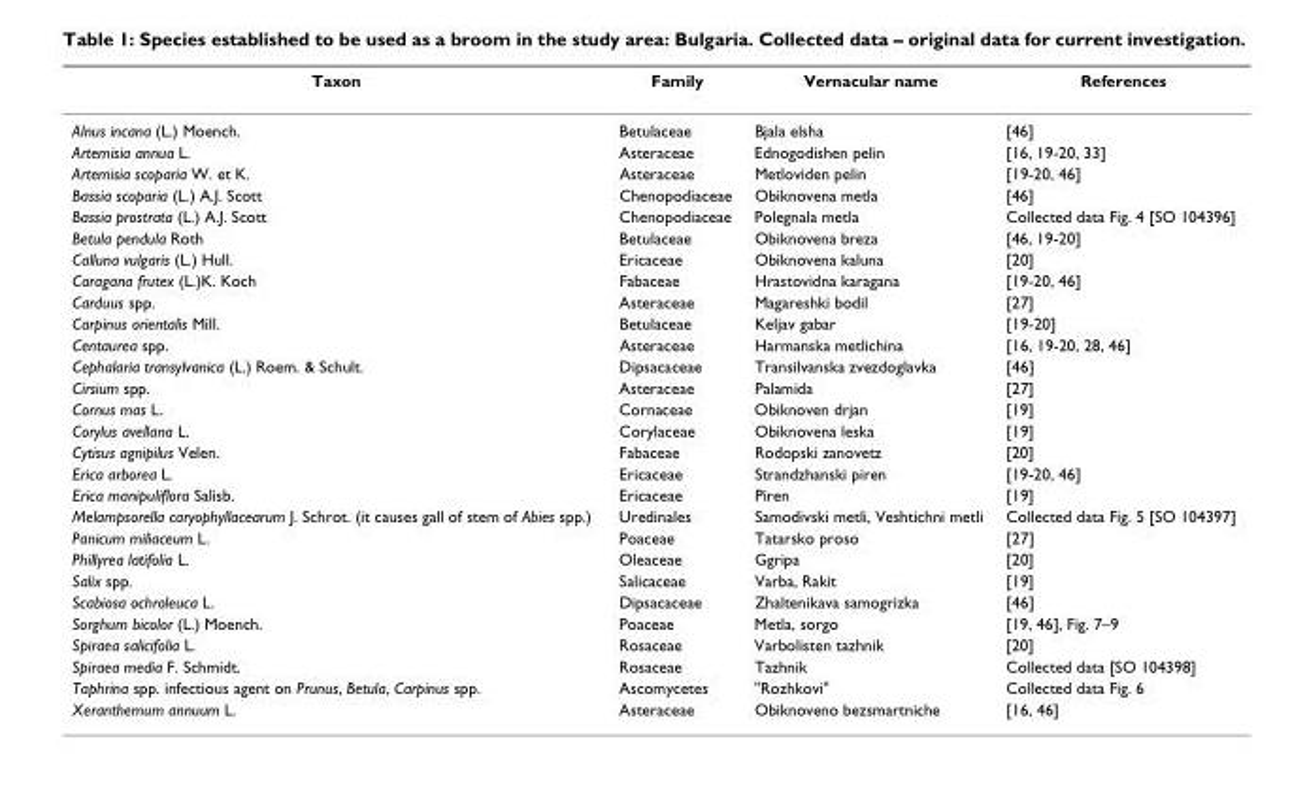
<table><thead><tr><td>Taxon</td><td>Family</td><td>Vernacular name</td><td>References</td></tr></thead><tbody><tr><td>Alnus incana (L.) Moench.</td><td>Betulaceae</td><td>Bjala elsha</td><td>[46]</td></tr><tr><td>Artemisia annua L.</td><td>Asteraceae</td><td>Ednogodishen pelin</td><td>[16, 19-20, 33]</td></tr><tr><td>Artemisia scoparia W. et K.</td><td>Asteraceae</td><td>Metloviden pelin</td><td>[19-20, 46]</td></tr><tr><td>Bassia scoparia (L.) A.J. Scott</td><td>Chenopodiaceae</td><td>Obiknovena metla</td><td>[46]</td></tr><tr><td>Bassia prostrata (L.) A.J. Scott</td><td>Chenopodiaceae</td><td>Polegnala metla</td><td>Collected data Fig. 4 [SO 104396]</td></tr><tr><td>Betula pendula Roth</td><td>Betulaceae</td><td>Obiknovena breza</td><td>[46, 19-20]</td></tr><tr><td>Calluna vulgaris (L.) Hull.</td><td>Ericaceae</td><td>Obiknovena kaluna</td><td>[20]</td></tr><tr><td>Caragana frutex (L.)K. Koch</td><td>Fabaceae</td><td>Hrastovidna karagana</td><td>[19-20, 46]</td></tr><tr><td>Carduus spp.</td><td>Asteraceae</td><td>Magareshki bodil</td><td>[27]</td></tr><tr><td>Carpinus orientalis Mill.</td><td>Betulaceae</td><td>Keljav gabar</td><td>[19-20]</td></tr><tr><td>Centaurea spp.</td><td>Asteraceae</td><td>Harmanska metlichina</td><td>[16, 19-20, 28, 46]</td></tr><tr><td>Cephalaria transylvanica (L.) Roem. &amp; Schult.</td><td>Dipsacaceae</td><td>Transilvanska zvezdoglavka</td><td>[46]</td></tr><tr><td>Cirsium spp.</td><td>Asteraceae</td><td>Palamida</td><td>[27]</td></tr><tr><td>Cornus mas L.</td><td>Cornaceae</td><td>Obiknoven drjan</td><td>[19]</td></tr><tr><td>Corylus avellana L.</td><td>Corylaceae</td><td>Obiknovena leska</td><td>[19]</td></tr><tr><td>Cytisus agnipilus Velen.</td><td>Fabaceae</td><td>Rodopski zanovetz</td><td>[20]</td></tr><tr><td>Erica arborea L.</td><td>Ericaceae</td><td>Strandzhanski piren</td><td>[19-20, 46]</td></tr><tr><td>Erica manipuliflora Salisb.</td><td>Ericaceae</td><td>Piren</td><td>[19]</td></tr><tr><td>Melampsorella caryophyllacearum J. Schrot. (it causes gall of stem of Abies spp.)</td><td>Uredinales</td><td>Samodivski metli, Veshtichni metli</td><td>Collected data Fig. 5 [SO 104397]</td></tr><tr><td>Panicum miliaceum L.</td><td>Poaceae</td><td>Tatarsko proso</td><td>[27]</td></tr><tr><td>Phillyrea latifolia L.</td><td>Oleaceae</td><td>Ggripa</td><td>[20]</td></tr><tr><td>Salix spp.</td><td>Salicaceae</td><td>Varba, Rakit</td><td>[19]</td></tr><tr><td>Scabiosa ochroleuca L.</td><td>Dipsacaceae</td><td>Zhaltenikava samogrizka</td><td>[46]</td></tr><tr><td>Sorghum bicolor (L.) Moench.</td><td>Poaceae</td><td>Metla, sorgo</td><td>[19, 46], Fig. 7–9</td></tr><tr><td>Spiraea salicifolia L.</td><td>Rosaceae</td><td>Varbolisten tazhnik</td><td>[20]</td></tr><tr><td>Spiraea media F. Schmidt.</td><td>Rosaceae</td><td>Tazhnik</td><td>Collected data [SO 104398]</td></tr><tr><td>Taphrina spp. infectious agent on Prunus, Betula, Carpinus spp.</td><td>Ascomycetes</td><td>&quot;Rozhkovi&quot;</td><td>Collected data Fig. 6</td></tr><tr><td>Xeranthemum annuum L.</td><td>Asteraceae</td><td>Obiknoveno bezsmartniche</td><td>[16, 46]</td></tr></tbody></table>